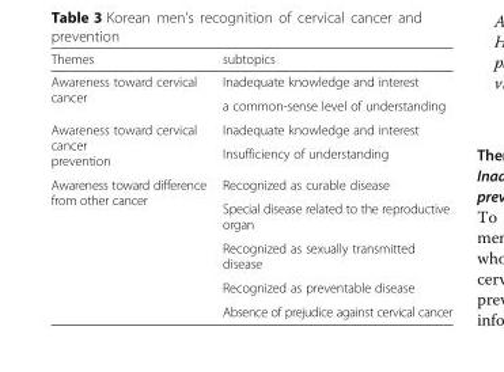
<table><thead><tr><td>Themes</td><td>subtopics</td></tr></thead><tbody><tr><td rowspan="2">Awareness toward cervical cancer</td><td>Inadequate knowledge and interest</td></tr><tr><td>a common-sense level of understanding</td></tr><tr><td rowspan="2">Awareness toward cervical cancer prevention</td><td>Inadequate knowledge and interest</td></tr><tr><td>Insufficiency of understanding</td></tr><tr><td rowspan="5">Awareness toward difference from other cancer</td><td>Recognized as curable disease</td></tr><tr><td>Special disease related to the reproductive organ</td></tr><tr><td>Recognized as sexually transmitted disease</td></tr><tr><td>Recognized as preventable disease</td></tr><tr><td>Absence of prejudice against cervical cancer</td></tr></tbody></table>